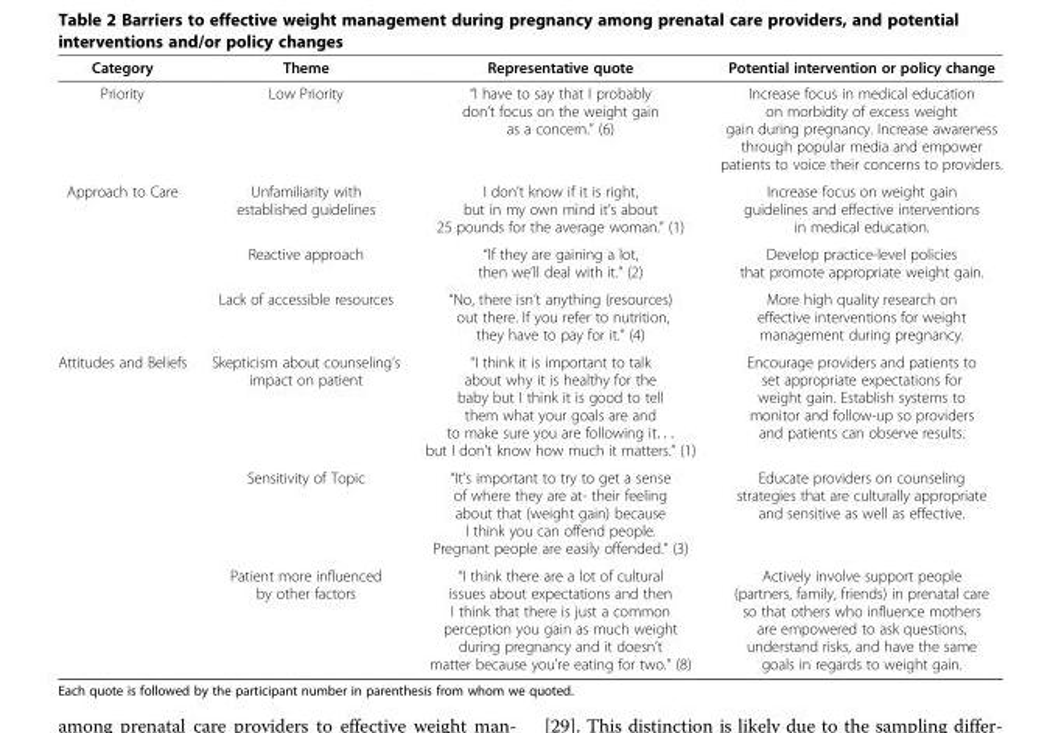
<table><thead><tr><td>Category</td><td>Theme</td><td>Representative quote</td><td>Potential intervention or policy change</td></tr></thead><tbody><tr><td>Priority</td><td>Low Priority</td><td>“I have to say that I probably don’t focus on the weight gain as a concern.” (6)</td><td>Increase focus in medical education on morbidity of excess weight gain during pregnancy. Increase awareness through popular media and empower patients to voice their concerns to providers.</td></tr><tr><td rowspan="3">Approach to Care</td><td>Unfamiliarity with established guidelines</td><td>I don’t know if it is right, but in my own mind it’s about 25 pounds for the average woman.” (1)</td><td>Increase focus on weight gain guidelines and effective interventions in medical education.</td></tr><tr><td>Reactive approach</td><td>“If they are gaining a lot, then we’ll deal with it.” (2)</td><td>Develop practice-level policies that promote appropriate weight gain.</td></tr><tr><td>Lack of accessible resources</td><td>“No, there isn’t anything (resources) out there. If you refer to nutrition, they have to pay for it.” (4)</td><td>More high quality research on effective interventions for weight management during pregnancy.</td></tr><tr><td rowspan="3">Attitudes and Beliefs</td><td>Skepticism about counseling’s impact on patient</td><td>“I think it is important to talk about why it is healthy for the baby but I think it is good to tell them what your goals are and to make sure you are following it. . . but I don’t know how much it matters.” (1)</td><td>Encourage providers and patients to set appropriate expectations for weight gain. Establish systems to monitor and follow-up so providers and patients can observe results.</td></tr><tr><td>Sensitivity of Topic</td><td>“It’s important to try to get a sense of where they are at- their feeling about that (weight gain) because I think you can offend people. Pregnant people are easily offended.” (3)</td><td>Educate providers on counseling strategies that are culturally appropriate and sensitive as well as effective.</td></tr><tr><td>Patient more influenced by other factors</td><td>“I think there are a lot of cultural issues about expectations and then I think that there is just a common perception you gain as much weight during pregnancy and it doesn’t matter because you’re eating for two.” (8)</td><td>Actively involve support people (partners, family, friends) in prenatal care so that others who influence mothers are empowered to ask questions, understand risks, and have the same goals in regards to weight gain.</td></tr></tbody></table>